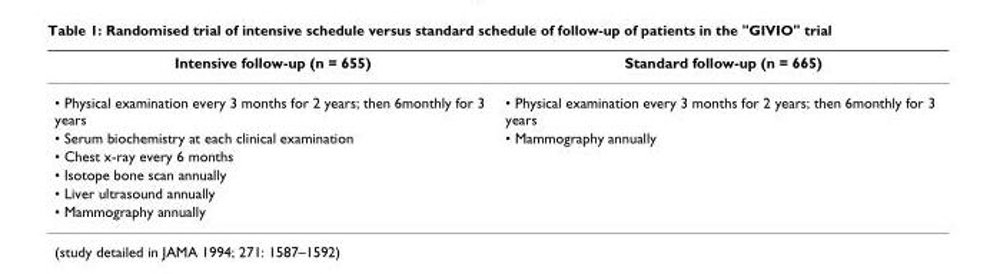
<table><thead><tr><td>Intensive follow-up (n = 655)</td><td>Standard follow-up (n = 665)</td></tr></thead><tbody><tr><td>• Physical examination every 3 months for 2 years; then 6monthly for 3 years</td><td>• Physical examination every 3 months for 2 years; then 6monthly for 3 years</td></tr><tr><td>• Serum biochemistry at each clinical examination</td><td>• Mammography annually</td></tr><tr><td colspan="2">• Chest x-ray every 6 months</td></tr><tr><td colspan="2">• Isotope bone scan annually</td></tr><tr><td colspan="2">• Liver ultrasound annually</td></tr><tr><td>• Mammography annually</td><td></td></tr></tbody></table>